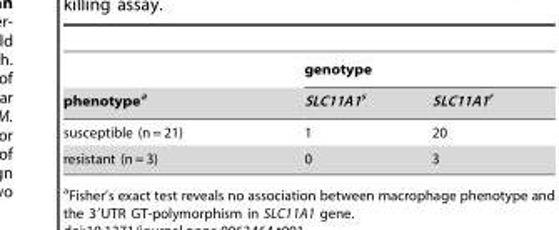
<table><thead><tr><td rowspan="2">phenotype<sup>a</sup></td><td colspan="2">genotype</td></tr><tr><td>SLC11A1<sup>s</sup></td><td>SLC11A1<sup>r</sup></td></tr></thead><tbody><tr><td>susceptible (n = 21)</td><td>1</td><td>20</td></tr><tr><td>resistant (n = 3)</td><td>0</td><td>3</td></tr></tbody></table>